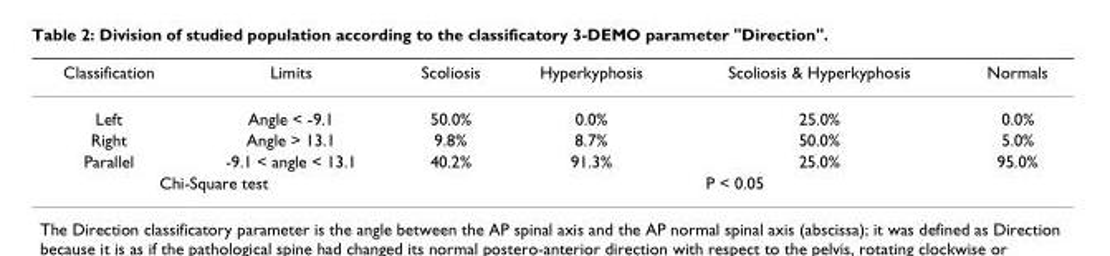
<table><thead><tr><td>Classification</td><td>Limits</td><td>Scoliosis</td><td>Hyperkyphosis</td><td>Scoliosis &amp; Hyperkyphosis</td><td>Normals</td></tr></thead><tbody><tr><td>Left</td><td>Angle &lt; -9.1</td><td>50.0%</td><td>0.0%</td><td>25.0%</td><td>0.0%</td></tr><tr><td>Right</td><td>Angle &gt; 13.1</td><td>9.8%</td><td>8.7%</td><td>50.0%</td><td>5.0%</td></tr><tr><td>Parallel</td><td>-9.1 &lt; angle &lt; 13.1</td><td>40.2%</td><td>91.3%</td><td>25.0%</td><td>95.0%</td></tr><tr><td colspan="2">Chi-Square test</td><td colspan="4">P &lt; 0.05</td></tr></tbody></table>